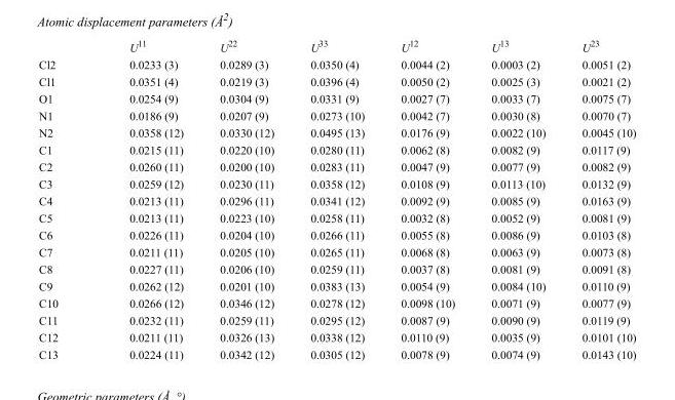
<table><thead><tr><td></td><td>U<sup>11</sup></td><td>U<sup>22</sup></td><td>U<sup>33</sup></td><td>U<sup>12</sup></td><td>U<sup>13</sup></td><td>U<sup>23</sup></td></tr></thead><tbody><tr><td>Cl2</td><td>0.0233 (3)</td><td>0.0289 (3)</td><td>0.0350 (4)</td><td>0.0044 (2)</td><td>0.0003 (2)</td><td>0.0051 (2)</td></tr><tr><td>Cl1</td><td>0.0351 (4)</td><td>0.0219 (3)</td><td>0.0396 (4)</td><td>0.0050 (2)</td><td>0.0025 (3)</td><td>0.0021 (2)</td></tr><tr><td>O1</td><td>0.0254 (9)</td><td>0.0304 (9)</td><td>0.0331 (9)</td><td>0.0027 (7)</td><td>0.0033 (7)</td><td>0.0075 (7)</td></tr><tr><td>N1</td><td>0.0186 (9)</td><td>0.0207 (9)</td><td>0.0273 (10)</td><td>0.0042 (7)</td><td>0.0030 (8)</td><td>0.0070 (7)</td></tr><tr><td>N2</td><td>0.0358 (12)</td><td>0.0330 (12)</td><td>0.0495 (13)</td><td>0.0176 (9)</td><td>0.0022 (10)</td><td>0.0045 (10)</td></tr><tr><td>C1</td><td>0.0215 (11)</td><td>0.0220 (10)</td><td>0.0280 (11)</td><td>0.0062 (8)</td><td>0.0082 (9)</td><td>0.0117 (9)</td></tr><tr><td>C2</td><td>0.0260 (11)</td><td>0.0200 (10)</td><td>0.0283 (11)</td><td>0.0047 (9)</td><td>0.0077 (9)</td><td>0.0082 (9)</td></tr><tr><td>C3</td><td>0.0259 (12)</td><td>0.0230 (11)</td><td>0.0358 (12)</td><td>0.0108 (9)</td><td>0.0113 (10)</td><td>0.0132 (9)</td></tr><tr><td>C4</td><td>0.0213 (11)</td><td>0.0296 (11)</td><td>0.0341 (12)</td><td>0.0092 (9)</td><td>0.0085 (9)</td><td>0.0163 (9)</td></tr><tr><td>C5</td><td>0.0213 (11)</td><td>0.0223 (10)</td><td>0.0258 (11)</td><td>0.0032 (8)</td><td>0.0052 (9)</td><td>0.0081 (9)</td></tr><tr><td>C6</td><td>0.0226 (11)</td><td>0.0204 (10)</td><td>0.0266 (11)</td><td>0.0055 (8)</td><td>0.0086 (9)</td><td>0.0103 (8)</td></tr><tr><td>C7</td><td>0.0211 (11)</td><td>0.0205 (10)</td><td>0.0265 (11)</td><td>0.0068 (8)</td><td>0.0063 (9)</td><td>0.0073 (8)</td></tr><tr><td>C8</td><td>0.0227 (11)</td><td>0.0206 (10)</td><td>0.0259 (11)</td><td>0.0037 (8)</td><td>0.0081 (9)</td><td>0.0091 (8)</td></tr><tr><td>C9</td><td>0.0262 (12)</td><td>0.0201 (10)</td><td>0.0383 (13)</td><td>0.0054 (9)</td><td>0.0084 (10)</td><td>0.0110 (9)</td></tr><tr><td>C10</td><td>0.0266 (12)</td><td>0.0346 (12)</td><td>0.0278 (12)</td><td>0.0098 (10)</td><td>0.0071 (9)</td><td>0.0077 (9)</td></tr><tr><td>C11</td><td>0.0232 (11)</td><td>0.0259 (11)</td><td>0.0295 (12)</td><td>0.0087 (9)</td><td>0.0090 (9)</td><td>0.0119 (9)</td></tr><tr><td>C12</td><td>0.0211 (11)</td><td>0.0326 (13)</td><td>0.0338 (12)</td><td>0.0110 (9)</td><td>0.0035 (9)</td><td>0.0101 (10)</td></tr><tr><td>C13</td><td>0.0224 (11)</td><td>0.0342 (12)</td><td>0.0305 (12)</td><td>0.0078 (9)</td><td>0.0074 (9)</td><td>0.0143 (10)</td></tr></tbody></table>